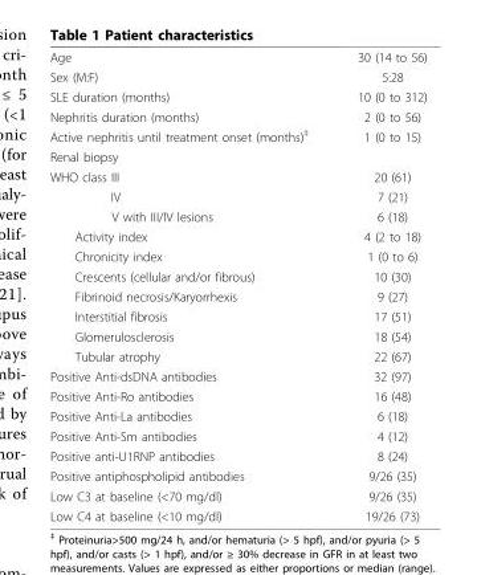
<table><tbody><tr><td>Age</td><td>30 (14 to 56)</td></tr><tr><td>Sex (M:F)</td><td>5:28</td></tr><tr><td>SLE duration (months)</td><td>10 (0 to 312)</td></tr><tr><td>Nephritis duration (months)</td><td>2 (0 to 56)</td></tr><tr><td>Active nephritis until treatment onset (months)<sup>‡</sup></td><td>1 (0 to 15)</td></tr><tr><td colspan="2">Renal biopsy</td></tr><tr><td>WHO class III</td><td>20 (61)</td></tr><tr><td>IV</td><td>7 (21)</td></tr><tr><td>V with III/IV lesions</td><td>6 (18)</td></tr><tr><td>Activity index</td><td>4 (2 to 18)</td></tr><tr><td>Chronicity index</td><td>1 (0 to 6)</td></tr><tr><td>Crescents (cellular and/or fibrous)</td><td>10 (30)</td></tr><tr><td>Fibrinoid necrosis/Karyorrhexis</td><td>9 (27)</td></tr><tr><td>Interstitial fibrosis</td><td>17 (51)</td></tr><tr><td>Glomerulosclerosis</td><td>18 (54)</td></tr><tr><td>Tubular atrophy</td><td>22 (67)</td></tr><tr><td>Positive Anti-dsDNA antibodies</td><td>32 (97)</td></tr><tr><td>Positive Anti-Ro antibodies</td><td>16 (48)</td></tr><tr><td>Positive Anti-La antibodies</td><td>6 (18)</td></tr><tr><td>Positive Anti-Sm antibodies</td><td>4 (12)</td></tr><tr><td>Positive anti-U1RNP antibodies</td><td>8 (24)</td></tr><tr><td>Positive antiphospholipid antibodies</td><td>9/26 (35)</td></tr><tr><td>Low C3 at baseline (&lt;70 mg/dl)</td><td>9/26 (35)</td></tr><tr><td>Low C4 at baseline (&lt;10 mg/dl)</td><td>19/26 (73)</td></tr></tbody></table>